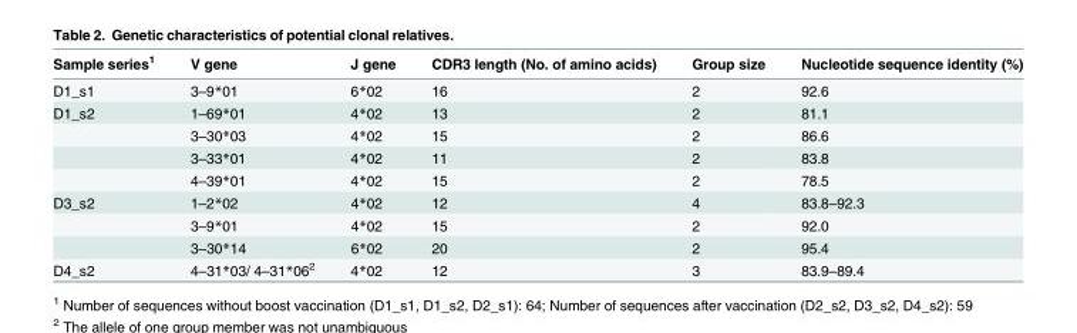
<table><thead><tr><td>Sample series<sup>1</sup></td><td>V gene</td><td>J gene</td><td>CDR3 length (No. of amino acids)</td><td>Group size</td><td>Nucleotide sequence identity (%)</td></tr></thead><tbody><tr><td>D1_s1</td><td>3–9*01</td><td>6*02</td><td>16</td><td>2</td><td>92.6</td></tr><tr><td rowspan="4">D1_s2</td><td>1–69*01</td><td>4*02</td><td>13</td><td>2</td><td>81.1</td></tr><tr><td>3–30*03</td><td>4*02</td><td>15</td><td>2</td><td>86.6</td></tr><tr><td>3–33*01</td><td>4*02</td><td>11</td><td>2</td><td>83.8</td></tr><tr><td>4–39*01</td><td>4*02</td><td>15</td><td>2</td><td>78.5</td></tr><tr><td rowspan="3">D3_s2</td><td>1–2*02</td><td>4*02</td><td>12</td><td>4</td><td>83.8–92.3</td></tr><tr><td>3–9*01</td><td>4*02</td><td>15</td><td>2</td><td>92.0</td></tr><tr><td>3–30*14</td><td>6*02</td><td>20</td><td>2</td><td>95.4</td></tr><tr><td>D4_s2</td><td>4–31*03/ 4–31*06<sup>2</sup></td><td>4*02</td><td>12</td><td>3</td><td>83.9–89.4</td></tr></tbody></table>